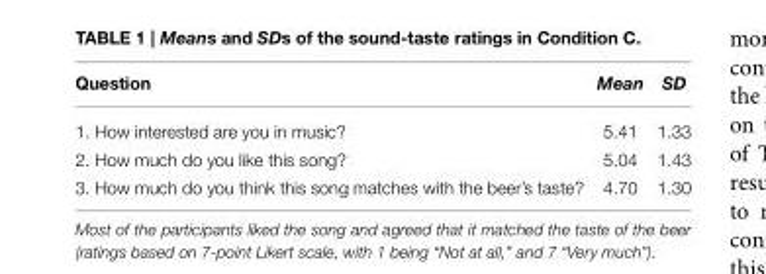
<table><thead><tr><td>Question</td><td>Mean</td><td>SD</td></tr></thead><tbody><tr><td>1. How interested are you in music?</td><td>5.41</td><td>1.33</td></tr><tr><td>2. How much do you like this song?</td><td>5.04</td><td>1.43</td></tr><tr><td>3. How much do you think this song matches with the beer’s taste?</td><td>4.70</td><td>1.30</td></tr></tbody></table>